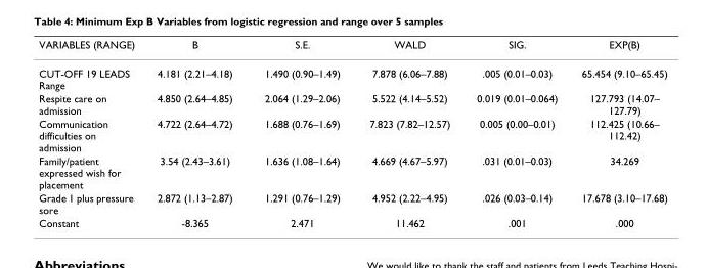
<table><thead><tr><td>VARIABLES (RANGE)</td><td>B</td><td>S.E.</td><td>WALD</td><td>SIG.</td><td>EXP(B)</td></tr></thead><tbody><tr><td>CUT-OFF 19 LEADS Range</td><td>4.181 (2.21–4.18)</td><td>1.490 (0.90–1.49)</td><td>7.878 (6.06–7.88)</td><td>.005 (0.01–0.03)</td><td>65.454 (9.10–65.45)</td></tr><tr><td>Respite care on admission</td><td>4.850 (2.64–4.85)</td><td>2.064 (1.29–2.06)</td><td>5.522 (4.14–5.52)</td><td>0.019 (0.01–0.064)</td><td>127.793 (14.07– 127.79)</td></tr><tr><td>Communication difficulties on admission</td><td>4.722 (2.64–4.72)</td><td>1.688 (0.76–1.69)</td><td>7.823 (7.82–12.57)</td><td>0.005 (0.00–0.01)</td><td>112.425 (10.66– 112.42)</td></tr><tr><td>Family/patient expressed wish for placement</td><td>3.54 (2.43–3.61)</td><td>1.636 (1.08–1.64)</td><td>4.669 (4.67–5.97)</td><td>.031 (0.01–0.03)</td><td>34.269</td></tr><tr><td>Grade 1 plus pressure sore</td><td>2.872 (1.13–2.87)</td><td>1.291 (0.76–1.29)</td><td>4.952 (2.22–4.95)</td><td>.026 (0.03–0.14)</td><td>17.678 (3.10–17.68)</td></tr><tr><td>Constant</td><td>-8.365</td><td>2.471</td><td>11.462</td><td>.001</td><td>.000</td></tr></tbody></table>